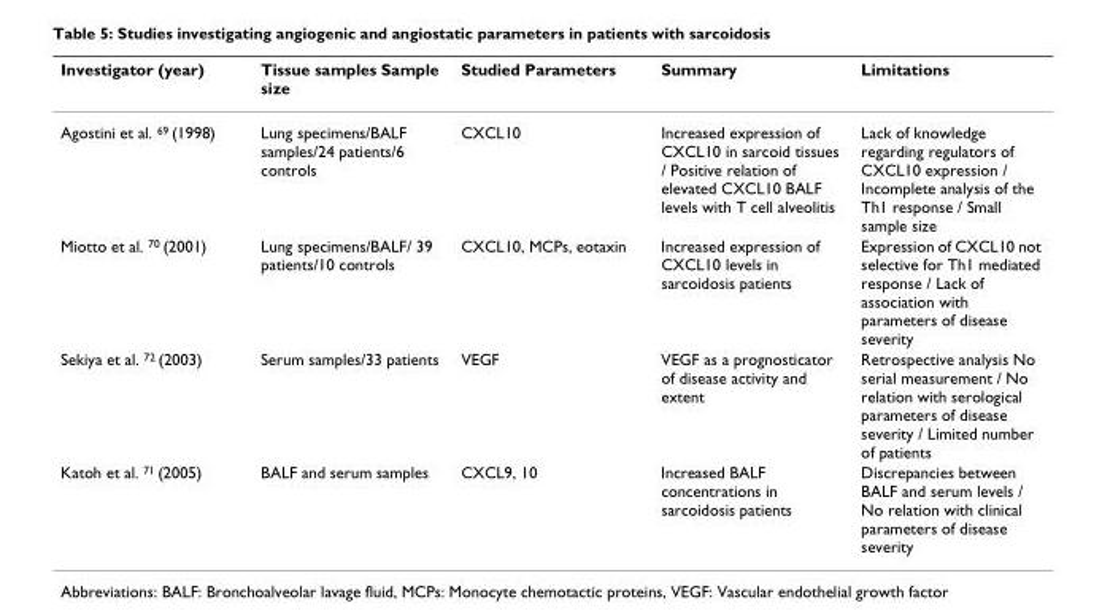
<table><thead><tr><td>Investigator (year)</td><td>Tissue samples Sample size</td><td>Studied Parameters</td><td>Summary</td><td>Limitations</td></tr></thead><tbody><tr><td>Agostini et al. <sup>69</sup> (1998)</td><td>Lung specimens/BALF samples/24 patients/6 controls</td><td>CXCL10</td><td>Increased expression of CXCL10 in sarcoid tissues / Positive relation of elevated CXCL10 BALF levels with T cell alveolitis</td><td>Lack of knowledge regarding regulators of CXCL10 expression / Incomplete analysis of the Th1 response / Small sample size</td></tr><tr><td>Miotto et al. <sup>70</sup> (2001)</td><td>Lung specimens/BALF/ 39 patients/10 controls</td><td>CXCL10, MCPs, eotaxin</td><td>Increased expression of CXCL10 levels in sarcoidosis patients</td><td>Expression of CXCL10 not selective for Th1 mediated response / Lack of association with parameters of disease severity</td></tr><tr><td>Sekiya et al. <sup>72</sup> (2003)</td><td>Serum samples/33 patients</td><td>VEGF</td><td>VEGF as a prognosticator of disease activity and extent</td><td>Retrospective analysis No serial measurement / No relation with serological parameters of disease severity / Limited number of patients</td></tr><tr><td>Katoh et al. <sup>71</sup> (2005)</td><td>BALF and serum samples</td><td>CXCL9, 10</td><td>Increased BALF concentrations in sarcoidosis patients</td><td>Discrepancies between BALF and serum levels / No relation with clinical parameters of disease severity</td></tr></tbody></table>